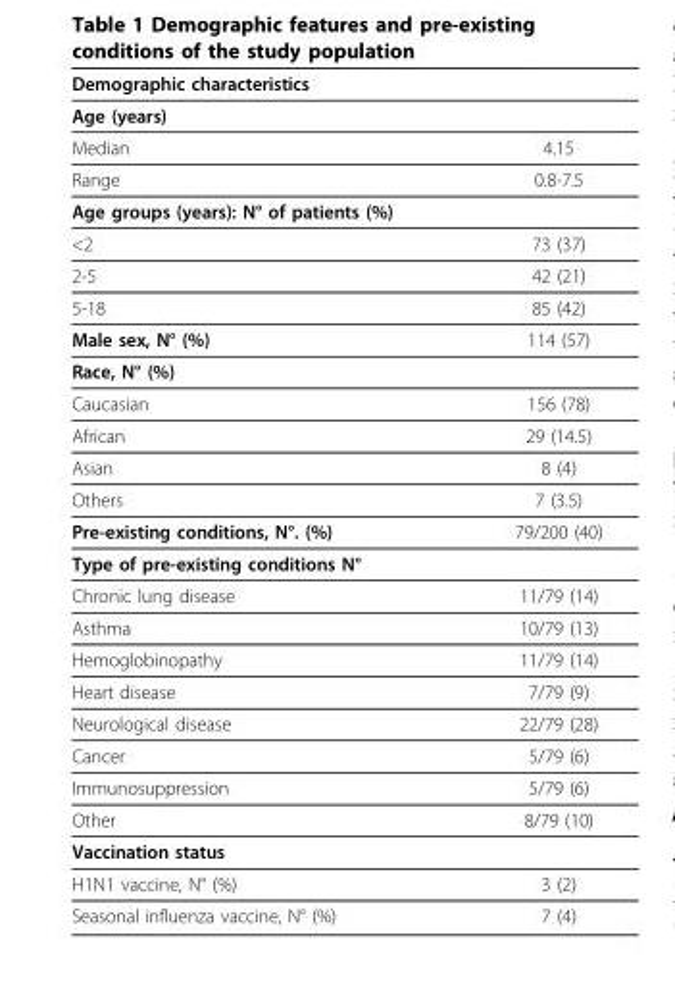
<table><thead><tr><td>Demographic characteristics</td><td></td></tr></thead><tbody><tr><td colspan="2">Age (years)</td></tr><tr><td>Median</td><td>4.15</td></tr><tr><td>Range</td><td>0.8-7.5</td></tr><tr><td colspan="2">Age groups (years): N° of patients (%)</td></tr><tr><td>&lt;2</td><td>73 (37)</td></tr><tr><td>2-5</td><td>42 (21)</td></tr><tr><td>5-18</td><td>85 (42)</td></tr><tr><td>Male sex, N° (%)</td><td>114 (57)</td></tr><tr><td colspan="2">Race, N° (%)</td></tr><tr><td>Caucasian</td><td>156 (78)</td></tr><tr><td>African</td><td>29 (14.5)</td></tr><tr><td>Asian</td><td>8 (4)</td></tr><tr><td>Others</td><td>7 (3.5)</td></tr><tr><td>Pre-existing conditions, N°. (%)</td><td>79/200 (40)</td></tr><tr><td colspan="2">Type of pre-existing conditions N°</td></tr><tr><td>Chronic lung disease</td><td>11/79 (14)</td></tr><tr><td>Asthma</td><td>10/79 (13)</td></tr><tr><td>Hemoglobinopathy</td><td>11/79 (14)</td></tr><tr><td>Heart disease</td><td>7/79 (9)</td></tr><tr><td>Neurological disease</td><td>22/79 (28)</td></tr><tr><td>Cancer</td><td>5/79 (6)</td></tr><tr><td>Immunosuppression</td><td>5/79 (6)</td></tr><tr><td>Other</td><td>8/79 (10)</td></tr><tr><td colspan="2">Vaccination status</td></tr><tr><td>H1N1 vaccine, N° (%)</td><td>3 (2)</td></tr><tr><td>Seasonal influenza vaccine, N° (%)</td><td>7 (4)</td></tr></tbody></table>